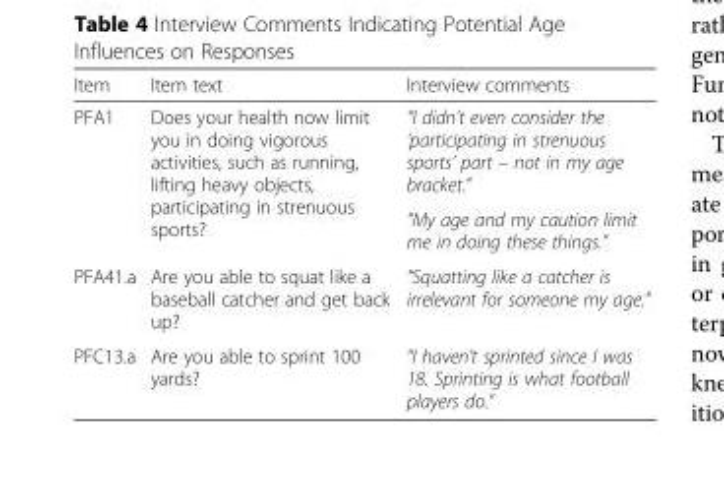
<table><thead><tr><td>Item</td><td>Item text</td><td>Interview comments</td></tr></thead><tbody><tr><td rowspan="2">PFA1</td><td rowspan="2">Does your health now limit you in doing vigorous activities, such as running, lifting heavy objects, participating in strenuous sports?</td><td>“I didn’t even consider the ‘participating in strenuous sports’ part – not in my age bracket.”</td></tr><tr><td>“My age and my caution limit me in doing these things.”</td></tr><tr><td>PFA41.a</td><td>Are you able to squat like a baseball catcher and get back up?</td><td>“Squatting like a catcher is irrelevant for someone my age.”</td></tr><tr><td>PFC13.a</td><td>Are you able to sprint 100 yards?</td><td>“I haven’t sprinted since I was 18. Sprinting is what football players do.”</td></tr></tbody></table>